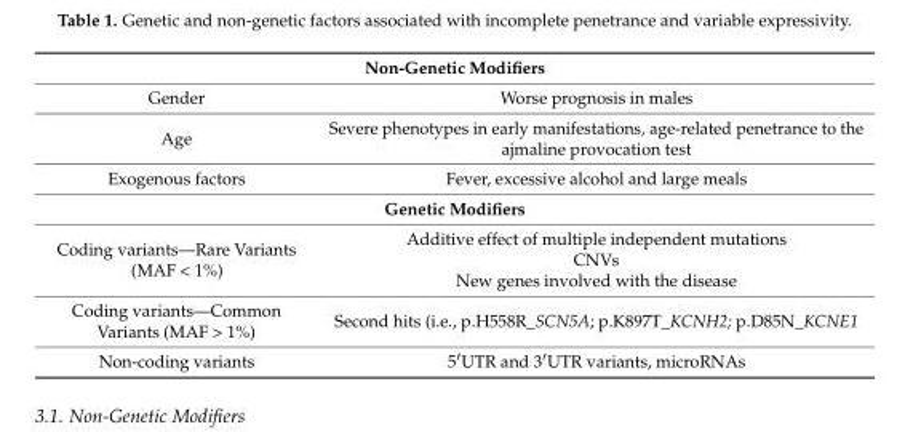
<table><thead><tr><td colspan="2">Non-Genetic Modifiers</td></tr><tr><td>Gender</td><td>Worse prognosis in males</td></tr></thead><tbody><tr><td>Age</td><td>Severe phenotypes in early manifestations, age-related penetrance to the ajmaline provocation test</td></tr><tr><td>Exogenous factors</td><td>Fever, excessive alcohol and large meals</td></tr><tr><td colspan="2">Genetic Modifiers</td></tr><tr><td rowspan="3">Coding variants—Rare Variants (MAF &lt; 1%)</td><td>Additive effect of multiple independent mutations</td></tr><tr><td>CNVs</td></tr><tr><td>New genes involved with the disease</td></tr><tr><td>Coding variants—Common Variants (MAF &gt; 1%)</td><td>Second hits (i.e., p.H558R_SCN5A; p.K897T_KCNH2; p.D85N_KCNE1</td></tr><tr><td>Non-coding variants</td><td>5′UTR and 3′UTR variants, microRNAs</td></tr></tbody></table>